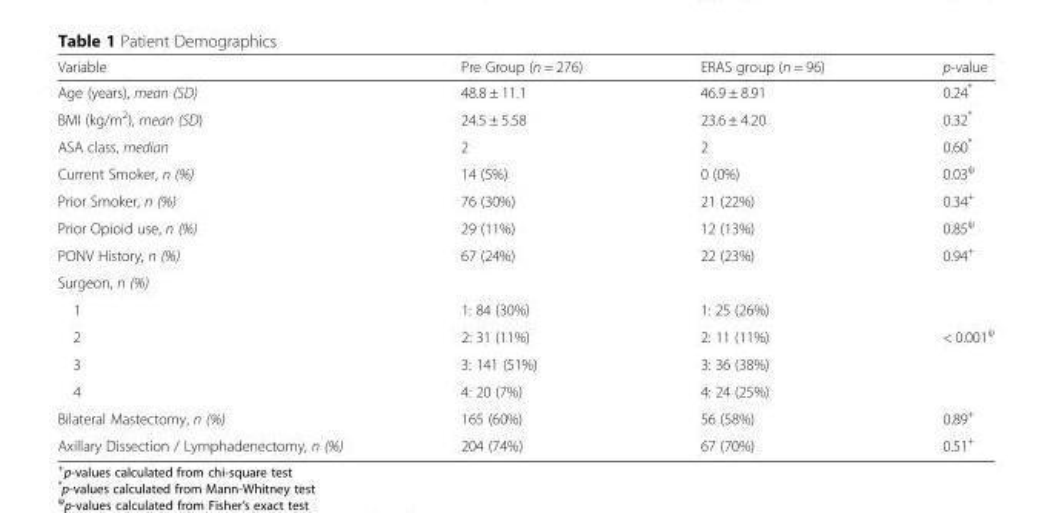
<table><thead><tr><td>Variable</td><td>Pre Group (n = 276)</td><td>ERAS group (n = 96)</td><td>p-value</td></tr></thead><tbody><tr><td>Age (years), mean (SD)</td><td>48.8 ± 11.1</td><td>46.9 ± 8.91</td><td>0.24*</td></tr><tr><td>BMI (kg/m<sup>2</sup>), mean (SD)</td><td>24.5 ± 5.58</td><td>23.6 ± 4.20</td><td>0.32*</td></tr><tr><td>ASA class, median</td><td>2</td><td>2</td><td>0.60*</td></tr><tr><td>Current Smoker, n (%)</td><td>14 (5%)</td><td>0 (0%)</td><td>0.03<sup>ψ</sup></td></tr><tr><td>Prior Smoker, n (%)</td><td>76 (30%)</td><td>21 (22%)</td><td>0.34<sup>+</sup></td></tr><tr><td>Prior Opioid use, n (%)</td><td>29 (11%)</td><td>12 (13%)</td><td>0.85<sup>ψ</sup></td></tr><tr><td>PONV History, n (%)</td><td>67 (24%)</td><td>22 (23%)</td><td>0.94<sup>+</sup></td></tr><tr><td colspan="4">Surgeon, n (%)</td></tr><tr><td>1</td><td>1: 84 (30%)</td><td>1: 25 (26%)</td><td></td></tr><tr><td>2</td><td>2: 31 (11%)</td><td>2: 11 (11%)</td><td>&lt; 0.001<sup>ψ</sup></td></tr><tr><td>3</td><td>3: 141 (51%)</td><td>3: 36 (38%)</td><td></td></tr><tr><td>4</td><td>4: 20 (7%)</td><td>4: 24 (25%)</td><td></td></tr><tr><td>Bilateral Mastectomy, n (%)</td><td>165 (60%)</td><td>56 (58%)</td><td>0.89<sup>+</sup></td></tr><tr><td>Axillary Dissection / Lymphadenectomy, n (%)</td><td>204 (74%)</td><td>67 (70%)</td><td>0.51<sup>+</sup></td></tr></tbody></table>